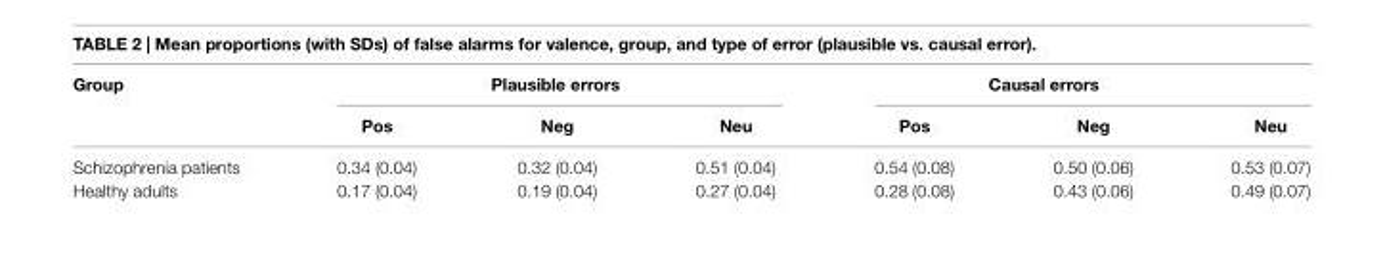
<table><thead><tr><td rowspan="2">group</td><td colspan="3">Plausible errors</td><td colspan="3">causal errors</td></tr><tr><td>Pos</td><td>neg</td><td>neu</td><td>Pos</td><td>neg</td><td>neu</td></tr></thead><tbody><tr><td>Schizophrenia patients</td><td>0.34 (0.04)</td><td>0.32 (0.04)</td><td>0.51 (0.04)</td><td>0.54 (0.08)</td><td>0.50 (0.06)</td><td>0.53 (0.07)</td></tr><tr><td>Healthy adults</td><td>0.17 (0.04)</td><td>0.19 (0.04)</td><td>0.27 (0.04)</td><td>0.28 (0.08)</td><td>0.43 (0.06)</td><td>0.49 (0.07)</td></tr></tbody></table>